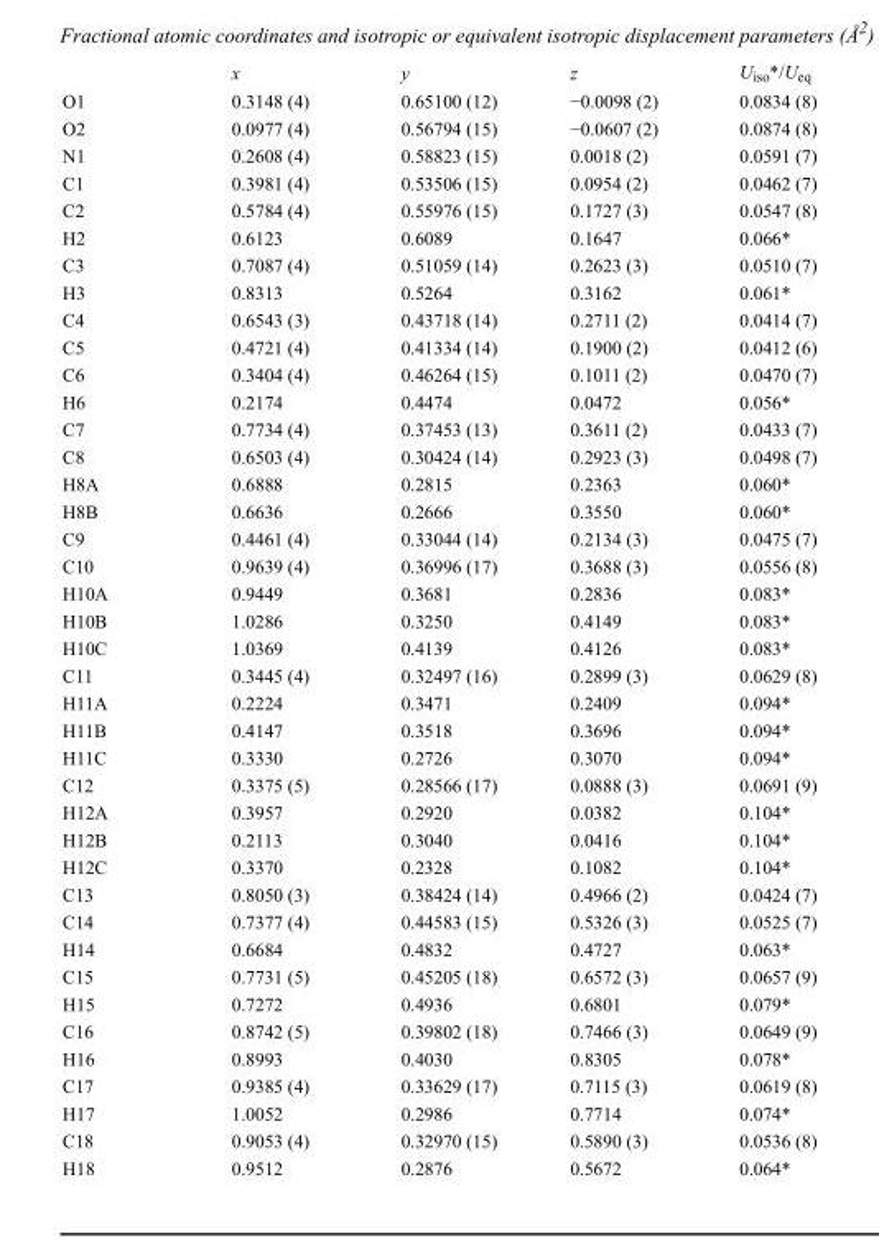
<table><thead><tr><td></td><td>x</td><td>y</td><td>z</td><td>U<sub>iso</sub>*/U<sub>eq</sub></td></tr></thead><tbody><tr><td>O1</td><td>0.3148 (4)</td><td>0.65100 (12)</td><td>−0.0098 (2)</td><td>0.0834 (8)</td></tr><tr><td>O2</td><td>0.0977 (4)</td><td>0.56794 (15)</td><td>−0.0607 (2)</td><td>0.0874 (8)</td></tr><tr><td>N1</td><td>0.2608 (4)</td><td>0.58823 (15)</td><td>0.0018 (2)</td><td>0.0591 (7)</td></tr><tr><td>C1</td><td>0.3981 (4)</td><td>0.53506 (15)</td><td>0.0954 (2)</td><td>0.0462 (7)</td></tr><tr><td>C2</td><td>0.5784 (4)</td><td>0.55976 (15)</td><td>0.1727 (3)</td><td>0.0547 (8)</td></tr><tr><td>H2</td><td>0.6123</td><td>0.6089</td><td>0.1647</td><td>0.066*</td></tr><tr><td>C3</td><td>0.7087 (4)</td><td>0.51059 (14)</td><td>0.2623 (3)</td><td>0.0510 (7)</td></tr><tr><td>H3</td><td>0.8313</td><td>0.5264</td><td>0.3162</td><td>0.061*</td></tr><tr><td>C4</td><td>0.6543 (3)</td><td>0.43718 (14)</td><td>0.2711 (2)</td><td>0.0414 (7)</td></tr><tr><td>C5</td><td>0.4721 (4)</td><td>0.41334 (14)</td><td>0.1900 (2)</td><td>0.0412 (6)</td></tr><tr><td>C6</td><td>0.3404 (4)</td><td>0.46264 (15)</td><td>0.1011 (2)</td><td>0.0470 (7)</td></tr><tr><td>H6</td><td>0.2174</td><td>0.4474</td><td>0.0472</td><td>0.056*</td></tr><tr><td>C7</td><td>0.7734 (4)</td><td>0.37453 (13)</td><td>0.3611 (2)</td><td>0.0433 (7)</td></tr><tr><td>C8</td><td>0.6503 (4)</td><td>0.30424 (14)</td><td>0.2923 (3)</td><td>0.0498 (7)</td></tr><tr><td>H8A</td><td>0.6888</td><td>0.2815</td><td>0.2363</td><td>0.060*</td></tr><tr><td>H8B</td><td>0.6636</td><td>0.2666</td><td>0.3550</td><td>0.060*</td></tr><tr><td>C9</td><td>0.4461 (4)</td><td>0.33044 (14)</td><td>0.2134 (3)</td><td>0.0475 (7)</td></tr><tr><td>C10</td><td>0.9639 (4)</td><td>0.36996 (17)</td><td>0.3688 (3)</td><td>0.0556 (8)</td></tr><tr><td>H10A</td><td>0.9449</td><td>0.3681</td><td>0.2836</td><td>0.083*</td></tr><tr><td>H10B</td><td>1.0286</td><td>0.3250</td><td>0.4149</td><td>0.083*</td></tr><tr><td>H10C</td><td>1.0369</td><td>0.4139</td><td>0.4126</td><td>0.083*</td></tr><tr><td>C11</td><td>0.3445 (4)</td><td>0.32497 (16)</td><td>0.2899 (3)</td><td>0.0629 (8)</td></tr><tr><td>H11A</td><td>0.2224</td><td>0.3471</td><td>0.2409</td><td>0.094*</td></tr><tr><td>H11B</td><td>0.4147</td><td>0.3518</td><td>0.3696</td><td>0.094*</td></tr><tr><td>H11C</td><td>0.3330</td><td>0.2726</td><td>0.3070</td><td>0.094*</td></tr><tr><td>C12</td><td>0.3375 (5)</td><td>0.28566 (17)</td><td>0.0888 (3)</td><td>0.0691 (9)</td></tr><tr><td>H12A</td><td>0.3957</td><td>0.2920</td><td>0.0382</td><td>0.104*</td></tr><tr><td>H12B</td><td>0.2113</td><td>0.3040</td><td>0.0416</td><td>0.104*</td></tr><tr><td>H12C</td><td>0.3370</td><td>0.2328</td><td>0.1082</td><td>0.104*</td></tr><tr><td>C13</td><td>0.8050 (3)</td><td>0.38424 (14)</td><td>0.4966 (2)</td><td>0.0424 (7)</td></tr><tr><td>C14</td><td>0.7377 (4)</td><td>0.44583 (15)</td><td>0.5326 (3)</td><td>0.0525 (7)</td></tr><tr><td>H14</td><td>0.6684</td><td>0.4832</td><td>0.4727</td><td>0.063*</td></tr><tr><td>C15</td><td>0.7731 (5)</td><td>0.45205 (18)</td><td>0.6572 (3)</td><td>0.0657 (9)</td></tr><tr><td>H15</td><td>0.7272</td><td>0.4936</td><td>0.6801</td><td>0.079*</td></tr><tr><td>C16</td><td>0.8742 (5)</td><td>0.39802 (18)</td><td>0.7466 (3)</td><td>0.0649 (9)</td></tr><tr><td>H16</td><td>0.8993</td><td>0.4030</td><td>0.8305</td><td>0.078*</td></tr><tr><td>C17</td><td>0.9385 (4)</td><td>0.33629 (17)</td><td>0.7115 (3)</td><td>0.0619 (8)</td></tr><tr><td>H17</td><td>1.0052</td><td>0.2986</td><td>0.7714</td><td>0.074*</td></tr><tr><td>C18</td><td>0.9053 (4)</td><td>0.32970 (15)</td><td>0.5890 (3)</td><td>0.0536 (8)</td></tr><tr><td>H18</td><td>0.9512</td><td>0.2876</td><td>0.5672</td><td>0.064*</td></tr></tbody></table>